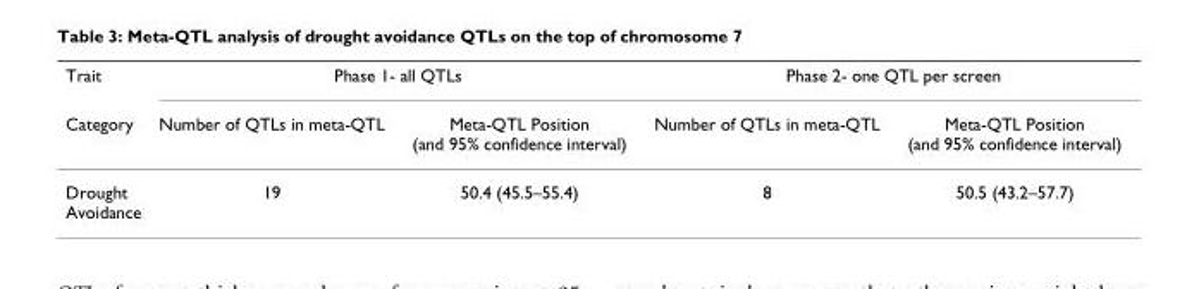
<table><thead><tr><td rowspan="2">Trait Category</td><td colspan="2">Phase 1- all QTLs</td><td colspan="2">Phase 2- one QTL per screen</td></tr><tr><td>Number of QTLs in meta-QTL</td><td>Meta-QTL Position (and 95% confidence interval)</td><td>Number of QTLs in meta-QTL</td><td>Meta-QTL Position (and 95% confidence interval)</td></tr></thead><tbody><tr><td>Drought Avoidance</td><td>19</td><td>50.4 (45.5–55.4)</td><td>8</td><td>50.5 (43.2–57.7)</td></tr></tbody></table>